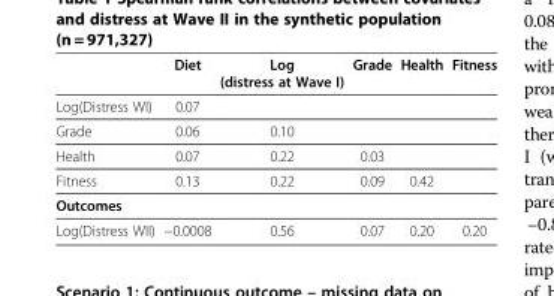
<table><thead><tr><td></td><td>Diet</td><td>Log (distress at Wave I)</td><td>Grade</td><td>Health</td><td>Fitness</td></tr></thead><tbody><tr><td>Log(Distress WI)</td><td>0.07</td><td></td><td></td><td></td><td></td></tr><tr><td>Grade</td><td>0.06</td><td>0.10</td><td></td><td></td><td></td></tr><tr><td>Health</td><td>0.07</td><td>0.22</td><td>0.03</td><td></td><td></td></tr><tr><td>Fitness</td><td>0.13</td><td>0.22</td><td>0.09</td><td>0.42</td><td></td></tr><tr><td colspan="6">Outcomes</td></tr><tr><td>Log(Distress WII)</td><td>−0.0008</td><td>0.56</td><td>0.07</td><td>0.20</td><td>0.20</td></tr></tbody></table>